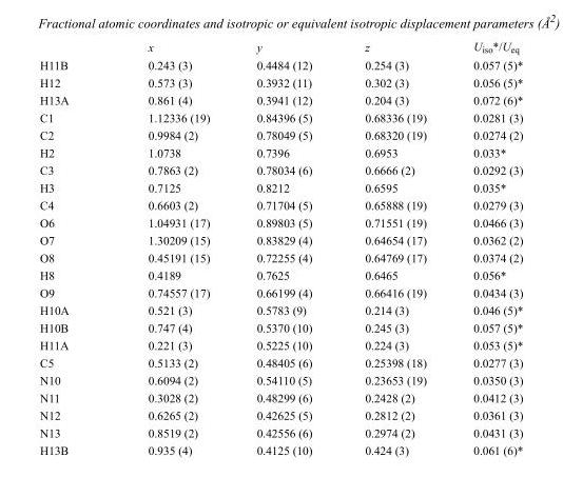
<table><thead><tr><td></td><td>x</td><td>y</td><td>z</td><td>U<sub>iso</sub>*/U<sub>eq</sub></td></tr></thead><tbody><tr><td>H11B</td><td>0.243 (3)</td><td>0.4484 (12)</td><td>0.254 (3)</td><td>0.057 (5)*</td></tr><tr><td>H12</td><td>0.573 (3)</td><td>0.3932 (11)</td><td>0.302 (3)</td><td>0.056 (5)*</td></tr><tr><td>H13A</td><td>0.861 (4)</td><td>0.3941 (12)</td><td>0.204 (3)</td><td>0.072 (6)*</td></tr><tr><td>C1</td><td>1.12336 (19)</td><td>0.84396 (5)</td><td>0.68336 (19)</td><td>0.0281 (3)</td></tr><tr><td>C2</td><td>0.9984 (2)</td><td>0.78049 (5)</td><td>0.68320 (19)</td><td>0.0274 (2)</td></tr><tr><td>H2</td><td>1.0738</td><td>0.7396</td><td>0.6953</td><td>0.033*</td></tr><tr><td>C3</td><td>0.7863 (2)</td><td>0.78034 (6)</td><td>0.6666 (2)</td><td>0.0292 (3)</td></tr><tr><td>H3</td><td>0.7125</td><td>0.8212</td><td>0.6595</td><td>0.035*</td></tr><tr><td>C4</td><td>0.6603 (2)</td><td>0.71704 (5)</td><td>0.65888 (19)</td><td>0.0279 (3)</td></tr><tr><td>O6</td><td>1.04931 (17)</td><td>0.89803 (5)</td><td>0.71551 (19)</td><td>0.0466 (3)</td></tr><tr><td>O7</td><td>1.30209 (15)</td><td>0.83829 (4)</td><td>0.64654 (17)</td><td>0.0362 (2)</td></tr><tr><td>O8</td><td>0.45191 (15)</td><td>0.72255 (4)</td><td>0.64769 (17)</td><td>0.0374 (2)</td></tr><tr><td>H8</td><td>0.4189</td><td>0.7625</td><td>0.6465</td><td>0.056*</td></tr><tr><td>O9</td><td>0.74557 (17)</td><td>0.66199 (4)</td><td>0.66416 (19)</td><td>0.0434 (3)</td></tr><tr><td>H10A</td><td>0.521 (3)</td><td>0.5783 (9)</td><td>0.214 (3)</td><td>0.046 (5)*</td></tr><tr><td>H10B</td><td>0.747 (4)</td><td>0.5370 (10)</td><td>0.245 (3)</td><td>0.057 (5)*</td></tr><tr><td>H11A</td><td>0.221 (3)</td><td>0.5225 (10)</td><td>0.224 (3)</td><td>0.053 (5)*</td></tr><tr><td>C5</td><td>0.5133 (2)</td><td>0.48405 (6)</td><td>0.25398 (18)</td><td>0.0277 (3)</td></tr><tr><td>N10</td><td>0.6094 (2)</td><td>0.54110 (5)</td><td>0.23653 (19)</td><td>0.0350 (3)</td></tr><tr><td>N11</td><td>0.3028 (2)</td><td>0.48299 (6)</td><td>0.2428 (2)</td><td>0.0412 (3)</td></tr><tr><td>N12</td><td>0.6265 (2)</td><td>0.42625 (5)</td><td>0.2812 (2)</td><td>0.0361 (3)</td></tr><tr><td>N13</td><td>0.8519 (2)</td><td>0.42556 (6)</td><td>0.2974 (2)</td><td>0.0431 (3)</td></tr><tr><td>H13B</td><td>0.935 (4)</td><td>0.4125 (10)</td><td>0.424 (3)</td><td>0.061 (6)*</td></tr></tbody></table>